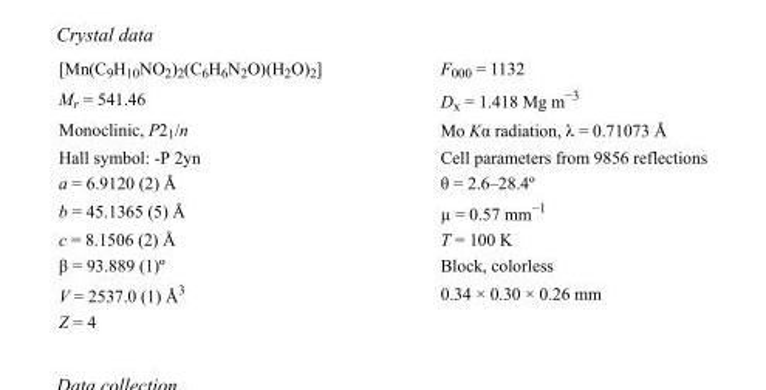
<table><tbody><tr><td>[Mn(C<sub>9</sub>H<sub>10</sub>NO<sub>2</sub>)<sub>2</sub>(C<sub>6</sub>H<sub>6</sub>N<sub>2</sub>O)(H<sub>2</sub>O)<sub>2</sub>]</td><td>F000 = 1132</td></tr><tr><td>M<sub>r</sub> = 541.46</td><td>D<sub>x</sub> = 1.418 Mg m<sup>−3</sup></td></tr><tr><td>Monoclinic, P2<sub>1</sub>/n</td><td>Mo Kα radiation, λ = 0.71073 Å</td></tr><tr><td>Hall symbol: -P 2yn</td><td>Cell parameters from 9856 reflections</td></tr><tr><td>a = 6.9120 (2) Å</td><td>θ = 2.6–28.4º</td></tr><tr><td>b = 45.1365 (5) Å</td><td>µ = 0.57 mm<sup>−1</sup></td></tr><tr><td>c = 8.1506 (2) Å</td><td>T = 100 K</td></tr><tr><td>β = 93.889 (1)º</td><td>Block, colorless</td></tr><tr><td>V = 2537.0 (1) Å<sup>3</sup></td><td>0.34 × 0.30 × 0.26 mm</td></tr><tr><td>Z = 4</td><td></td></tr></tbody></table>